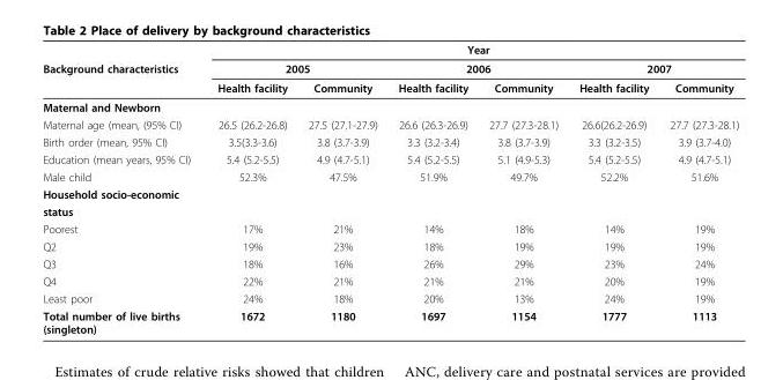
<table><thead><tr><td rowspan="3">Background characteristics</td><td></td><td></td><td rowspan="2" colspan="2">Year 2006</td><td></td><td></td></tr><tr><td colspan="2">2005</td><td colspan="2">2007</td></tr><tr><td>Health facility</td><td>Community</td><td>Health facility</td><td>Community</td><td>Health facility</td><td>Community</td></tr></thead><tbody><tr><td colspan="7">Maternal and Newborn</td></tr><tr><td>Maternal age (mean, (95% CI)</td><td>26.5 (26.2-26.8)</td><td>27.5 (27.1-27.9)</td><td>26.6 (26.3-26.9)</td><td>27.7 (27.3-28.1)</td><td>26.6(26.2-26.9)</td><td>27.7 (27.3-28.1)</td></tr><tr><td>Birth order (mean, 95% CI)</td><td>3.5(3.3-3.6)</td><td>3.8 (3.7-3.9)</td><td>3.3 (3.2-3.4)</td><td>3.8 (3.7-3.9)</td><td>3.3 (3.2-3.5)</td><td>3.9 (3.7-4.0)</td></tr><tr><td>Education (mean years, 95% CI)</td><td>5.4 (5.2-5.5)</td><td>4.9 (4.7-5.1)</td><td>5.4 (5.2-5.5)</td><td>5.1 (4.9-5.3)</td><td>5.4 (5.2-5.5)</td><td>4.9 (4.7-5.1)</td></tr><tr><td>Male child</td><td>52.3%</td><td>47.5%</td><td>51.9%</td><td>49.7%</td><td>52.2%</td><td>51.6%</td></tr><tr><td colspan="7">Household socio-economic</td></tr><tr><td colspan="7">status</td></tr><tr><td>Poorest</td><td>17%</td><td>21%</td><td>14%</td><td>18%</td><td>14%</td><td>19%</td></tr><tr><td>Q2</td><td>19%</td><td>23%</td><td>18%</td><td>19%</td><td>19%</td><td>19%</td></tr><tr><td>Q3</td><td>18%</td><td>16%</td><td>26%</td><td>29%</td><td>23%</td><td>24%</td></tr><tr><td>Q4</td><td>22%</td><td>21%</td><td>21%</td><td>21%</td><td>20%</td><td>19%</td></tr><tr><td>Least poor</td><td>24%</td><td>18%</td><td>20%</td><td>13%</td><td>24%</td><td>19%</td></tr><tr><td>Total number of live births (singleton)</td><td>1672</td><td>1180</td><td>1697</td><td>1154</td><td>1777</td><td>1113</td></tr></tbody></table>